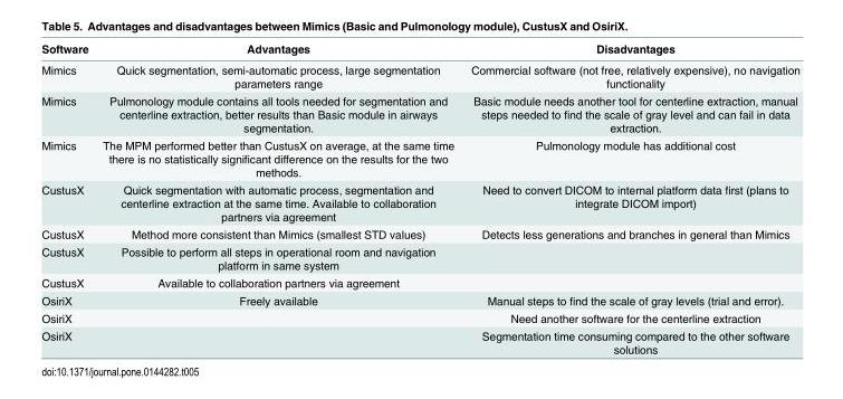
<table><thead><tr><td>Software</td><td>Advantages</td><td>Disadvantages</td></tr></thead><tbody><tr><td>Mimics</td><td>Quick segmentation, semi-automatic process, large segmentation parameters range</td><td>Commercial software (not free, relatively expensive), no navigation functionality</td></tr><tr><td>Mimics</td><td>Pulmonology module contains all tools needed for segmentation and centerline extraction, better results than Basic module in airways segmentation.</td><td>Basic module needs another tool for centerline extraction, manual steps needed to find the scale of gray level and can fail in data extraction.</td></tr><tr><td>Mimics</td><td>The MPM performed better than CustusX on average, at the same time there is no statistically significant difference on the results for the two methods.</td><td>Pulmonology module has additional cost</td></tr><tr><td>CustusX</td><td>Quick segmentation with automatic process, segmentation and centerline extraction at the same time. Available to collaboration partners via agreement</td><td>Need to convert DICOM to internal platform data first (plans to integrate DICOM import)</td></tr><tr><td>CustusX</td><td>Method more consistent than Mimics (smallest STD values)</td><td>Detects less generations and branches in general than Mimics</td></tr><tr><td>CustusX</td><td>Possible to perform all steps in operational room and navigation platform in same system</td><td></td></tr><tr><td>CustusX</td><td>Available to collaboration partners via agreement</td><td></td></tr><tr><td>OsiriX</td><td>Freely available</td><td>Manual steps to find the scale of gray levels (trial and error).</td></tr><tr><td>OsiriX</td><td></td><td>Need another software for the centerline extraction</td></tr><tr><td>OsiriX</td><td></td><td>Segmentation time consuming compared to the other software solutions</td></tr></tbody></table>